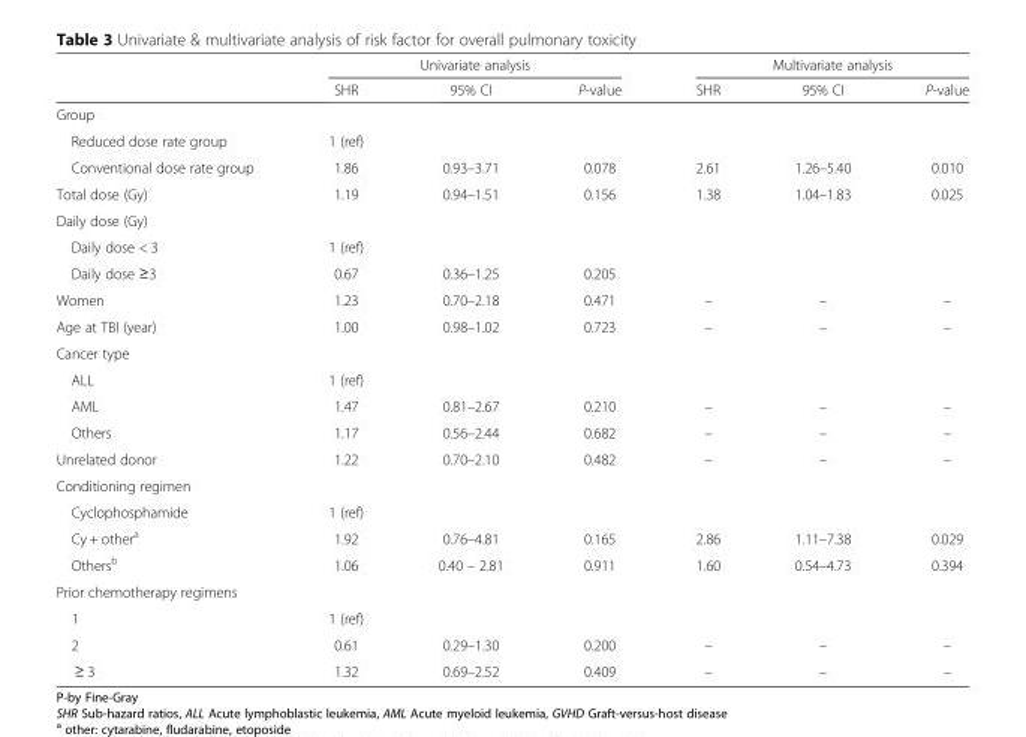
<table><thead><tr><td rowspan="2"></td><td colspan="3">Univariate analysis</td><td colspan="3">Multivariate analysis</td></tr><tr><td>SHR</td><td>95% CI</td><td>P-value</td><td>SHR</td><td>95% CI</td><td>P-value</td></tr></thead><tbody><tr><td colspan="7">Group</td></tr><tr><td>Reduced dose rate group</td><td>1 (ref)</td><td></td><td></td><td></td><td></td><td></td></tr><tr><td>Conventional dose rate group</td><td>1.86</td><td>0.93–3.71</td><td>0.078</td><td>2.61</td><td>1.26–5.40</td><td>0.010</td></tr><tr><td>Total dose (Gy)</td><td>1.19</td><td>0.94–1.51</td><td>0.156</td><td>1.38</td><td>1.04–1.83</td><td>0.025</td></tr><tr><td colspan="7">Daily dose (Gy)</td></tr><tr><td>Daily dose &lt; 3</td><td>1 (ref)</td><td></td><td></td><td></td><td></td><td></td></tr><tr><td>Daily dose ≥3</td><td>0.67</td><td>0.36–1.25</td><td>0.205</td><td></td><td></td><td></td></tr><tr><td>Women</td><td>1.23</td><td>0.70–2.18</td><td>0.471</td><td>–</td><td>–</td><td>–</td></tr><tr><td>Age at TBI (year)</td><td>1.00</td><td>0.98–1.02</td><td>0.723</td><td>–</td><td>–</td><td>–</td></tr><tr><td colspan="7">Cancer type</td></tr><tr><td>ALL</td><td>1 (ref)</td><td></td><td></td><td></td><td></td><td></td></tr><tr><td>AML</td><td>1.47</td><td>0.81–2.67</td><td>0.210</td><td>–</td><td>–</td><td>–</td></tr><tr><td>Others</td><td>1.17</td><td>0.56–2.44</td><td>0.682</td><td>–</td><td>–</td><td>–</td></tr><tr><td>Unrelated donor</td><td>1.22</td><td>0.70–2.10</td><td>0.482</td><td>–</td><td>–</td><td>–</td></tr><tr><td colspan="7">Conditioning regimen</td></tr><tr><td>Cyclophosphamide</td><td>1 (ref)</td><td></td><td></td><td></td><td></td><td></td></tr><tr><td>Cy + other<sup>a</sup></td><td>1.92</td><td>0.76–4.81</td><td>0.165</td><td>2.86</td><td>1.11–7.38</td><td>0.029</td></tr><tr><td>Others<sup>b</sup></td><td>1.06</td><td>0.40 – 2.81</td><td>0.911</td><td>1.60</td><td>0.54–4.73</td><td>0.394</td></tr><tr><td colspan="7">Prior chemotherapy regimens</td></tr><tr><td>1</td><td>1 (ref)</td><td></td><td></td><td></td><td></td><td></td></tr><tr><td>2</td><td>0.61</td><td>0.29–1.30</td><td>0.200</td><td>–</td><td>–</td><td>–</td></tr><tr><td>≥ 3</td><td>1.32</td><td>0.69–2.52</td><td>0.409</td><td>–</td><td>–</td><td>–</td></tr></tbody></table>